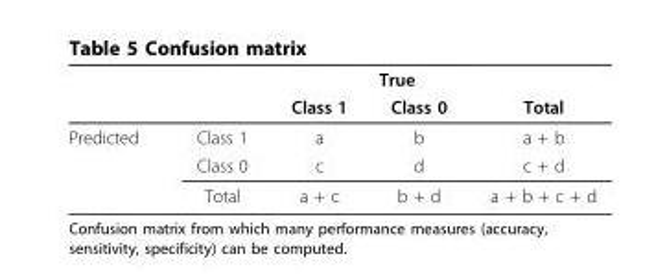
<table><thead><tr><td rowspan="2"></td><td colspan="4">True</td></tr><tr><td></td><td>Class 1</td><td>Class 0</td><td>Total</td></tr></thead><tbody><tr><td rowspan="3">Predicted</td><td>Class 1</td><td>a</td><td>b</td><td>a + b</td></tr><tr><td>Class 0</td><td>c</td><td>d</td><td>c + d</td></tr><tr><td>Total</td><td>a + c</td><td>b + d</td><td>a + b + c + d</td></tr></tbody></table>